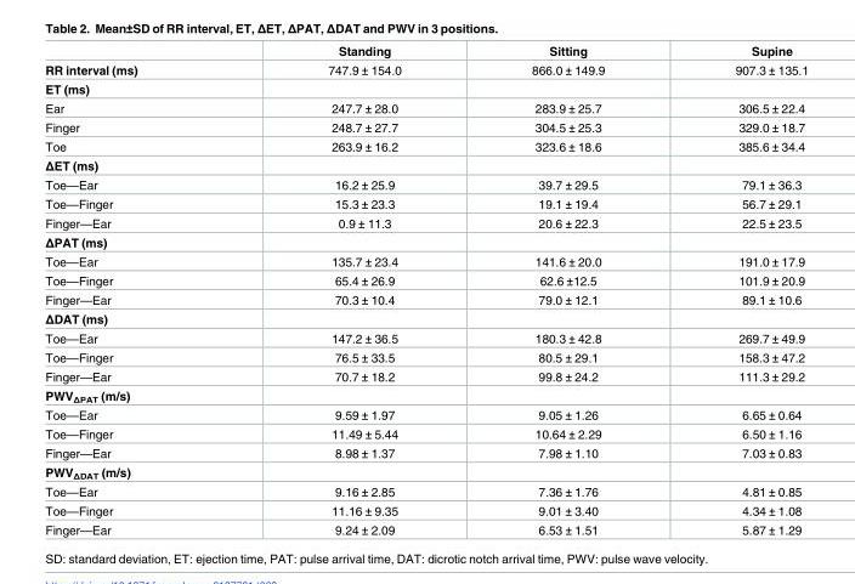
<table><thead><tr><td></td><td>Standing</td><td>Sitting</td><td>Supine</td></tr></thead><tbody><tr><td>RR interval (ms)</td><td>747.9 ± 154.0</td><td>866.0 ± 149.9</td><td>907.3 ± 135.1</td></tr><tr><td colspan="4">ET (ms)</td></tr><tr><td>Ear</td><td>247.7 ± 28.0</td><td>283.9 ± 25.7</td><td>306.5 ± 22.4</td></tr><tr><td>Finger</td><td>248.7 ± 27.7</td><td>304.5 ± 25.3</td><td>329.0 ± 18.7</td></tr><tr><td>Toe</td><td>263.9 ± 16.2</td><td>323.6 ± 18.6</td><td>385.6 ± 34.4</td></tr><tr><td colspan="4">ΔET (ms)</td></tr><tr><td>Toe—Ear</td><td>16.2 ± 25.9</td><td>39.7 ± 29.5</td><td>79.1 ± 36.3</td></tr><tr><td>Toe—Finger</td><td>15.3 ± 23.3</td><td>19.1 ± 19.4</td><td>56.7 ± 29.1</td></tr><tr><td>Finger—Ear</td><td>0.9 ± 11.3</td><td>20.6 ± 22.3</td><td>22.5 ± 23.5</td></tr><tr><td colspan="4">ΔPAT (ms)</td></tr><tr><td>Toe—Ear</td><td>135.7 ± 23.4</td><td>141.6 ± 20.0</td><td>191.0 ± 17.9</td></tr><tr><td>Toe—Finger</td><td>65.4 ± 26.9</td><td>62.6 ±12.5</td><td>101.9 ± 20.9</td></tr><tr><td>Finger—Ear</td><td>70.3 ± 10.4</td><td>79.0 ± 12.1</td><td>89.1 ± 10.6</td></tr><tr><td colspan="4">ΔDAT (ms)</td></tr><tr><td>Toe—Ear</td><td>147.2 ± 36.5</td><td>180.3 ± 42.8</td><td>269.7 ± 49.9</td></tr><tr><td>Toe—Finger</td><td>76.5 ± 33.5</td><td>80.5 ± 29.1</td><td>158.3 ± 47.2</td></tr><tr><td>Finger—Ear</td><td>70.7 ± 18.2</td><td>99.8 ± 24.2</td><td>111.3 ± 29.2</td></tr><tr><td colspan="4">PWV<sub>ΔPAT</sub> (m/s)</td></tr><tr><td>Toe—Ear</td><td>9.59 ± 1.97</td><td>9.05 ± 1.26</td><td>6.65 ± 0.64</td></tr><tr><td>Toe—Finger</td><td>11.49 ± 5.44</td><td>10.64 ± 2.29</td><td>6.50 ± 1.16</td></tr><tr><td>Finger—Ear</td><td>8.98 ± 1.37</td><td>7.98 ± 1.10</td><td>7.03 ± 0.83</td></tr><tr><td colspan="4">PWV<sub>ΔDAT</sub> (m/s)</td></tr><tr><td>Toe—Ear</td><td>9.16 ± 2.85</td><td>7.36 ± 1.76</td><td>4.81 ± 0.85</td></tr><tr><td>Toe—Finger</td><td>11.16 ± 9.35</td><td>9.01 ± 3.40</td><td>4.34 ± 1.08</td></tr><tr><td>Finger—Ear</td><td>9.24 ± 2.09</td><td>6.53 ± 1.51</td><td>5.87 ± 1.29</td></tr></tbody></table>